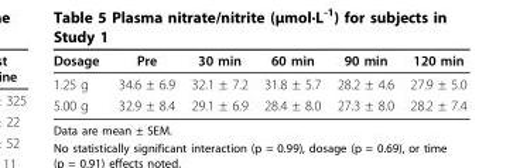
<table><thead><tr><td>Dosage</td><td>Pre</td><td>30 min</td><td>60 min</td><td>90 min</td><td>120 min</td></tr></thead><tbody><tr><td>1.25 g</td><td>34.6 ± 6.9</td><td>32.1 ± 7.2</td><td>31.8 ± 5.7</td><td>28.2 ± 4.6</td><td>27.9 ± 5.0</td></tr><tr><td>5.00 g</td><td>32.9 ± 8.4</td><td>29.1 ± 6.9</td><td>28.4 ± 8.0</td><td>27.3 ± 8.0</td><td>28.2 ± 7.4</td></tr></tbody></table>